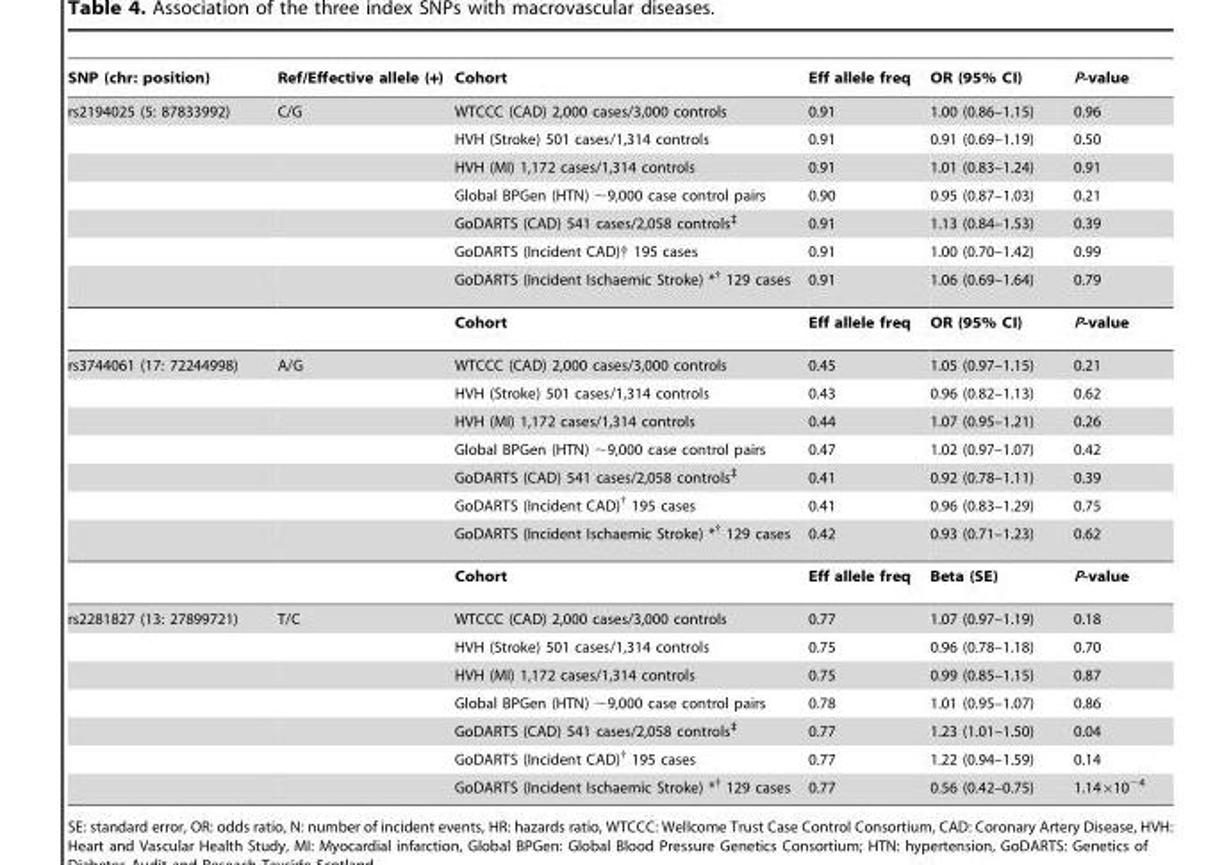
<table><thead><tr><td>SNP (chr: position)</td><td>Ref/Effective allele (+)</td><td>Cohort</td><td>Eff allele freq</td><td>OR (95% CI)</td><td>P-value</td></tr></thead><tbody><tr><td rowspan="8">rs2194025 (5: 87833992)</td><td>C/G</td><td>WTCCC (CAD) 2,000 cases/3,000 controls</td><td>0.91</td><td>1.00 (0.86–1.15)</td><td>0.96</td></tr><tr><td></td><td>HVH (Stroke) 501 cases/1,314 controls</td><td>0.91</td><td>0.91 (0.69–1.19)</td><td>0.50</td></tr><tr><td></td><td>HVH (MI) 1,172 cases/1,314 controls</td><td>0.91</td><td>1.01 (0.83–1.24)</td><td>0.91</td></tr><tr><td></td><td>Global BPGen (HTN) ∼9,000 case control pairs</td><td>0.90</td><td>0.95 (0.87–1.03)</td><td>0.21</td></tr><tr><td></td><td>GoDARTS (CAD) 541 cases/2,058 controls‡</td><td>0.91</td><td>1.13 (0.84–1.53)</td><td>0.39</td></tr><tr><td></td><td>GoDARTS (Incident CAD)† 195 cases</td><td>0.91</td><td>1.00 (0.70–1.42)</td><td>0.99</td></tr><tr><td></td><td>GoDARTS (Incident Ischaemic Stroke) *† 129 cases</td><td>0.91</td><td>1.06 (0.69–1.64)</td><td>0.79</td></tr><tr><td></td><td>Cohort</td><td>Eff allele freq</td><td>OR (95% CI)</td><td>P-value</td></tr><tr><td rowspan="8">rs3744061 (17: 72244998)</td><td>A/G</td><td>WTCCC (CAD) 2,000 cases/3,000 controls</td><td>0.45</td><td>1.05 (0.97–1.15)</td><td>0.21</td></tr><tr><td></td><td>HVH (Stroke) 501 cases/1,314 controls</td><td>0.43</td><td>0.96 (0.82–1.13)</td><td>0.62</td></tr><tr><td></td><td>HVH (MI) 1,172 cases/1,314 controls</td><td>0.44</td><td>1.07 (0.95–1.21)</td><td>0.26</td></tr><tr><td></td><td>Global BPGen (HTN) ∼9,000 case control pairs</td><td>0.47</td><td>1.02 (0.97–1.07)</td><td>0.42</td></tr><tr><td></td><td>GoDARTS (CAD) 541 cases/2,058 controls‡</td><td>0.41</td><td>0.92 (0.78–1.11)</td><td>0.39</td></tr><tr><td></td><td>GoDARTS (Incident CAD)† 195 cases</td><td>0.41</td><td>0.96 (0.83–1.29)</td><td>0.75</td></tr><tr><td></td><td>GoDARTS (Incident Ischaemic Stroke) *† 129 cases</td><td>0.42</td><td>0.93 (0.71–1.23)</td><td>0.62</td></tr><tr><td></td><td>Cohort</td><td>Eff allele freq</td><td>Beta (SE)</td><td>P-value</td></tr><tr><td rowspan="7">rs2281827 (13: 27899721)</td><td>T/C</td><td>WTCCC (CAD) 2,000 cases/3,000 controls</td><td>0.77</td><td>1.07 (0.97–1.19)</td><td>0.18</td></tr><tr><td></td><td>HVH (Stroke) 501 cases/1,314 controls</td><td>0.75</td><td>0.96 (0.78–1.18)</td><td>0.70</td></tr><tr><td></td><td>HVH (MI) 1,172 cases/1,314 controls</td><td>0.75</td><td>0.99 (0.85–1.15)</td><td>0.87</td></tr><tr><td></td><td>Global BPGen (HTN) ∼9,000 case control pairs</td><td>0.78</td><td>1.01 (0.95–1.07)</td><td>0.86</td></tr><tr><td></td><td>GoDARTS (CAD) 541 cases/2,058 controls‡</td><td>0.77</td><td>1.23 (1.01–1.50)</td><td>0.04</td></tr><tr><td></td><td>GoDARTS (Incident CAD)† 195 cases</td><td>0.77</td><td>1.22 (0.94–1.59)</td><td>0.14</td></tr><tr><td></td><td>GoDARTS (Incident Ischaemic Stroke) *† 129 cases</td><td>0.77</td><td>0.56 (0.42–0.75)</td><td>1.14×10<sup>−4</sup></td></tr></tbody></table>